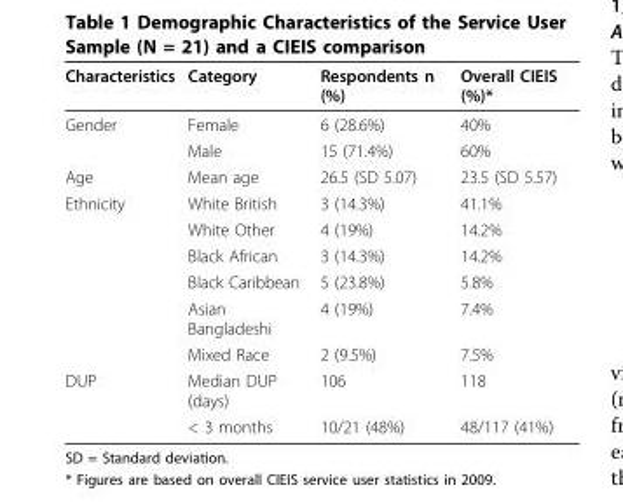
<table><thead><tr><td>Characteristics</td><td>Category</td><td>Respondents n (%)</td><td>Overall CIEIS (%)*</td></tr></thead><tbody><tr><td rowspan="2">Gender</td><td>Female</td><td>6 (28.6%)</td><td>40%</td></tr><tr><td>Male</td><td>15 (71.4%)</td><td>60%</td></tr><tr><td>Age</td><td>Mean age</td><td>26.5 (SD 5.07)</td><td>23.5 (SD 5.57)</td></tr><tr><td rowspan="6">Ethnicity</td><td>White British</td><td>3 (14.3%)</td><td>41.1%</td></tr><tr><td>White Other</td><td>4 (19%)</td><td>14.2%</td></tr><tr><td>Black African</td><td>3 (14.3%)</td><td>14.2%</td></tr><tr><td>Black Caribbean</td><td>5 (23.8%)</td><td>5.8%</td></tr><tr><td>Asian Bangladeshi</td><td>4 (19%)</td><td>7.4%</td></tr><tr><td>Mixed Race</td><td>2 (9.5%)</td><td>7.5%</td></tr><tr><td rowspan="2">DUP</td><td>Median DUP (days)</td><td>106</td><td>118</td></tr><tr><td>&lt; 3 months</td><td>10/21 (48%)</td><td>48/117 (41%)</td></tr></tbody></table>